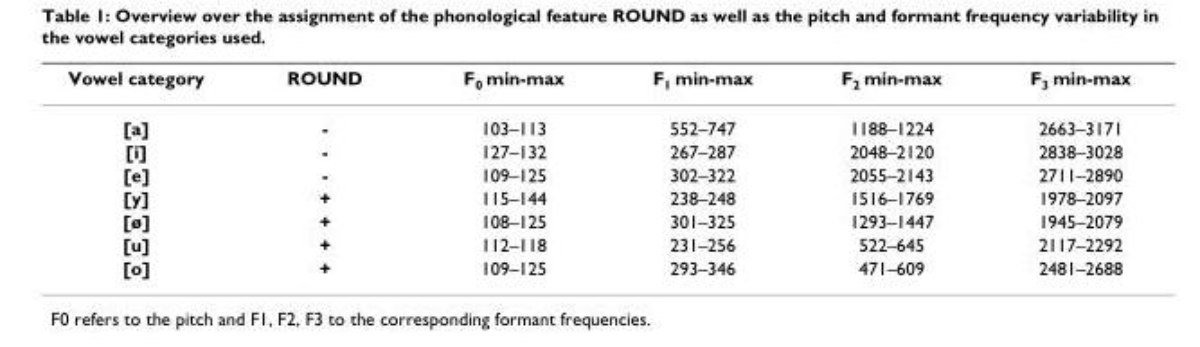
<table><thead><tr><td>Vowel category</td><td>ROUND</td><td>F<sub>0</sub> min-max</td><td>F<sub>1</sub> min-max</td><td>F<sub>2</sub> min-max</td><td>F<sub>3</sub> min-max</td></tr></thead><tbody><tr><td>[a]</td><td>-</td><td>103–113</td><td>552–747</td><td>1188–1224</td><td>2663–3171</td></tr><tr><td>[i]</td><td>-</td><td>127–132</td><td>267–287</td><td>2048–2120</td><td>2838–3028</td></tr><tr><td>[e]</td><td>-</td><td>109–125</td><td>302–322</td><td>2055–2143</td><td>2711–2890</td></tr><tr><td>[y]</td><td>+</td><td>115–144</td><td>238–248</td><td>1516–1769</td><td>1978–2097</td></tr><tr><td>[ø]</td><td>+</td><td>108–125</td><td>301–325</td><td>1293–1447</td><td>1945–2079</td></tr><tr><td>[u]</td><td>+</td><td>112–118</td><td>231–256</td><td>522–645</td><td>2117–2292</td></tr><tr><td>[o]</td><td>+</td><td>109–125</td><td>293–346</td><td>471–609</td><td>2481–2688</td></tr></tbody></table>